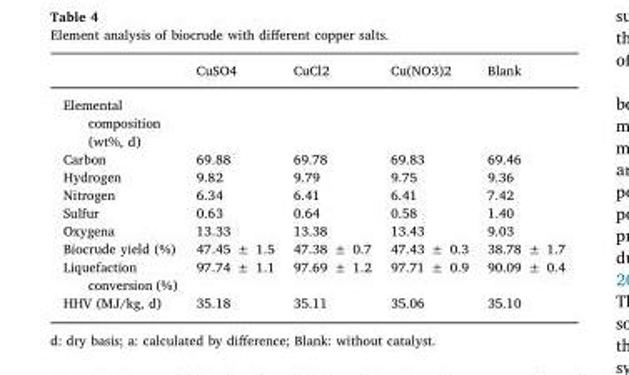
<table><thead><tr><td></td><td>CuSO4</td><td>CuCl2</td><td>Cu(NO3)2</td><td>Blank</td></tr></thead><tbody><tr><td colspan="5">Elemental composition (wt%, d)</td></tr><tr><td>Carbon</td><td>69.88</td><td>69.78</td><td>69.83</td><td>69.46</td></tr><tr><td>Hydrogen</td><td>9.82</td><td>9.79</td><td>9.75</td><td>9.36</td></tr><tr><td>Nitrogen</td><td>6.34</td><td>6.41</td><td>6.41</td><td>7.42</td></tr><tr><td>Sulfur</td><td>0.63</td><td>0.64</td><td>0.58</td><td>1.40</td></tr><tr><td>Oxygena</td><td>13.33</td><td>13.38</td><td>13.43</td><td>9.03</td></tr><tr><td>Biocrude yield (%)</td><td>47.45 ± 1.5</td><td>47.38 ± 0.7</td><td>47.43 ± 0.3</td><td>38.78 ± 1.7</td></tr><tr><td>Liquefaction conversion (%)</td><td>97.74 ± 1.1</td><td>97.69 ± 1.2</td><td>97.71 ± 0.9</td><td>90.09 ± 0.4</td></tr><tr><td>HHV (MJ/kg, d)</td><td>35.18</td><td>35.11</td><td>35.06</td><td>35.10</td></tr></tbody></table>